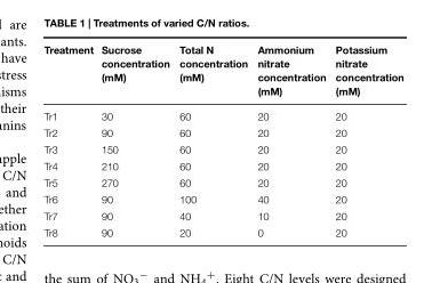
<table><thead><tr><td>Treatment</td><td>Sucrose concentration (mM)</td><td>Total N concentration (mM)</td><td>Ammonium nitrate concentration (mM)</td><td>Potassium nitrate concentration (mM)</td></tr></thead><tbody><tr><td>Tr1</td><td>30</td><td>60</td><td>20</td><td>20</td></tr><tr><td>Tr2</td><td>90</td><td>60</td><td>20</td><td>20</td></tr><tr><td>Tr3</td><td>150</td><td>60</td><td>20</td><td>20</td></tr><tr><td>Tr4</td><td>210</td><td>60</td><td>20</td><td>20</td></tr><tr><td>Tr5</td><td>270</td><td>60</td><td>20</td><td>20</td></tr><tr><td>Tr6</td><td>90</td><td>100</td><td>40</td><td>20</td></tr><tr><td>Tr7</td><td>90</td><td>40</td><td>10</td><td>20</td></tr><tr><td>Tr8</td><td>90</td><td>20</td><td>0</td><td>20</td></tr></tbody></table>